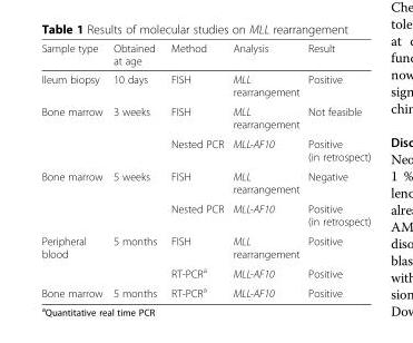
<table><thead><tr><td>Sample type</td><td>Obtained at age</td><td>Method</td><td>Analysis</td><td>Result</td></tr></thead><tbody><tr><td>Ileum biopsy</td><td>10 days</td><td>FISH</td><td>MLL rearrangement</td><td>Positive</td></tr><tr><td rowspan="2">Bone marrow</td><td rowspan="2">3 weeks</td><td>FISH</td><td>MLL rearrangement</td><td>Not feasible</td></tr><tr><td>Nested PCR</td><td>MLL-AF10</td><td>Positive (in retrospect)</td></tr><tr><td rowspan="2">Bone marrow</td><td rowspan="2">5 weeks</td><td>FISH</td><td>MLL rearrangement</td><td>Negative</td></tr><tr><td>Nested PCR</td><td>MLL-AF10</td><td>Positive (in retrospect)</td></tr><tr><td rowspan="2">Peripheral blood</td><td rowspan="2">5 months</td><td>FISH</td><td>MLL rearrangement</td><td>Positive</td></tr><tr><td>RT-PCR<sup>a</sup></td><td>MLL-AF10</td><td>Positive</td></tr><tr><td>Bone marrow</td><td>5 months</td><td>RT-PCR<sup>a</sup></td><td>MLL-AF10</td><td>Positive</td></tr></tbody></table>